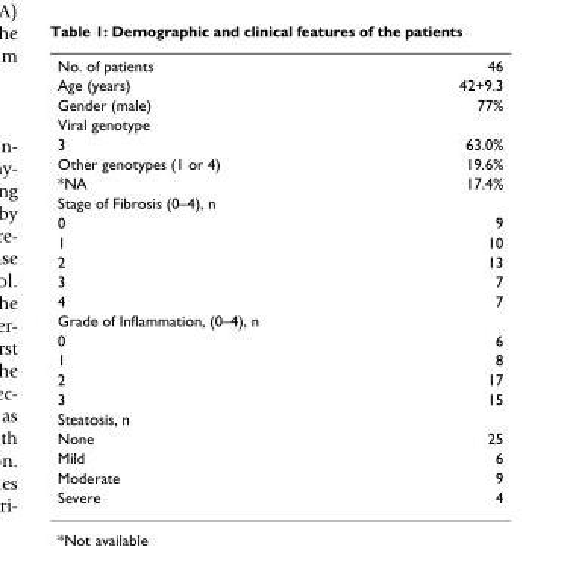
<table><tbody><tr><td>No. of patients</td><td>46</td></tr><tr><td>Age (years)</td><td>42+9.3</td></tr><tr><td>Gender (male)</td><td>77%</td></tr><tr><td colspan="2">Viral genotype</td></tr><tr><td>3</td><td>63.0%</td></tr><tr><td>Other genotypes (1 or 4)</td><td>19.6%</td></tr><tr><td>*NA</td><td>17.4%</td></tr><tr><td colspan="2">Stage of Fibrosis (0–4), n</td></tr><tr><td>0</td><td>9</td></tr><tr><td>1</td><td>10</td></tr><tr><td>2</td><td>13</td></tr><tr><td>3</td><td>7</td></tr><tr><td>4</td><td>7</td></tr><tr><td colspan="2">Grade of Inflammation, (0–4), n</td></tr><tr><td>0</td><td>6</td></tr><tr><td>1</td><td>8</td></tr><tr><td>2</td><td>17</td></tr><tr><td>3</td><td>15</td></tr><tr><td colspan="2">Steatosis, n</td></tr><tr><td>None</td><td>25</td></tr><tr><td>Mild</td><td>6</td></tr><tr><td>Moderate</td><td>9</td></tr><tr><td>Severe</td><td>4</td></tr></tbody></table>